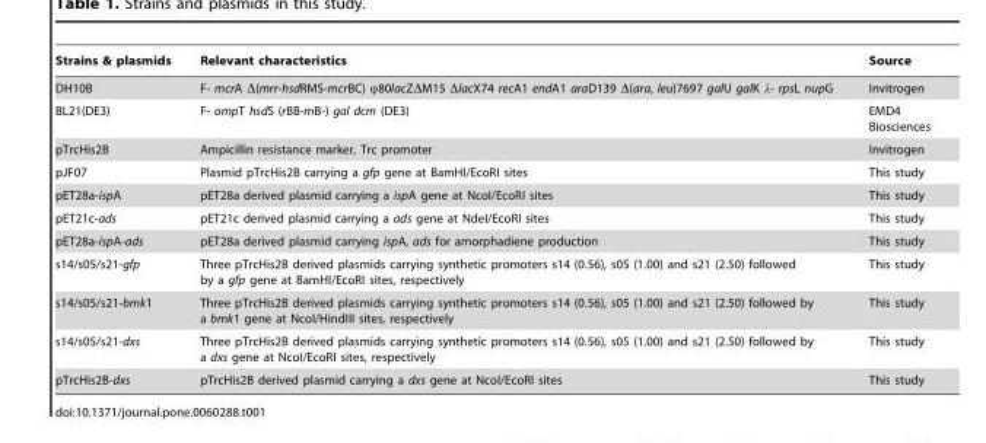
<table><thead><tr><td>Strains &amp; plasmids</td><td>Relevant characteristics</td><td>Source</td></tr></thead><tbody><tr><td>DH10B</td><td>F- mcrA Δ(mrr-hsdRMS-mcrBC) φ80lacZΔM15 ΔlacX74 recA1 endA1 araD139 Δ(ara, leu)7697 galU galK λ- rpsL nupG</td><td>Invitrogen</td></tr><tr><td>BL21(DE3)</td><td>F- ompT hsdS (rBB-mB-) gal dcm (DE3)</td><td>EMD4 Biosciences</td></tr><tr><td>pTrcHis2B</td><td>Ampicillin resistance marker, Trc promoter</td><td>Invitrogen</td></tr><tr><td>pJF07</td><td>Plasmid pTrcHis2B carrying a gfp gene at BamHI/EcoRI sites</td><td>This study</td></tr><tr><td>pET28a-ispA</td><td>pET28a derived plasmid carrying a ispA gene at NcoI/EcoRI sites</td><td>This study</td></tr><tr><td>pET21c-ads</td><td>pET21c derived plasmid carrying a ads gene at NdeI/EcoRI sites</td><td>This study</td></tr><tr><td>pET28a-ispA-ads</td><td>pET28a derived plasmid carrying ispA, ads for amorphadiene production</td><td>This study</td></tr><tr><td>s14/s05/s21-gfp</td><td>Three pTrcHis2B derived plasmids carrying synthetic promoters s14 (0.56), s05 (1.00) and s21 (2.50) followed by a gfp gene at BamHI/EcoRI sites, respectively</td><td>This study</td></tr><tr><td>s14/s05/s21-bmk1</td><td>Three pTrcHis2B derived plasmids carrying synthetic promoters s14 (0.56), s05 (1.00) and s21 (2.50) followed by a bmk1 gene at NcoI/HindIII sites, respectively</td><td>This study</td></tr><tr><td>s14/s05/s21-dxs</td><td>Three pTrcHis2B derived plasmids carrying synthetic promoters s14 (0.56), s05 (1.00) and s21 (2.50) followed by a dxs gene at NcoI/EcoRI sites, respectively</td><td>This study</td></tr><tr><td>pTrcHis2B-dxs</td><td>pTrcHis2B derived plasmid carrying a dxs gene at NcoI/EcoRI sites</td><td>This study</td></tr></tbody></table>